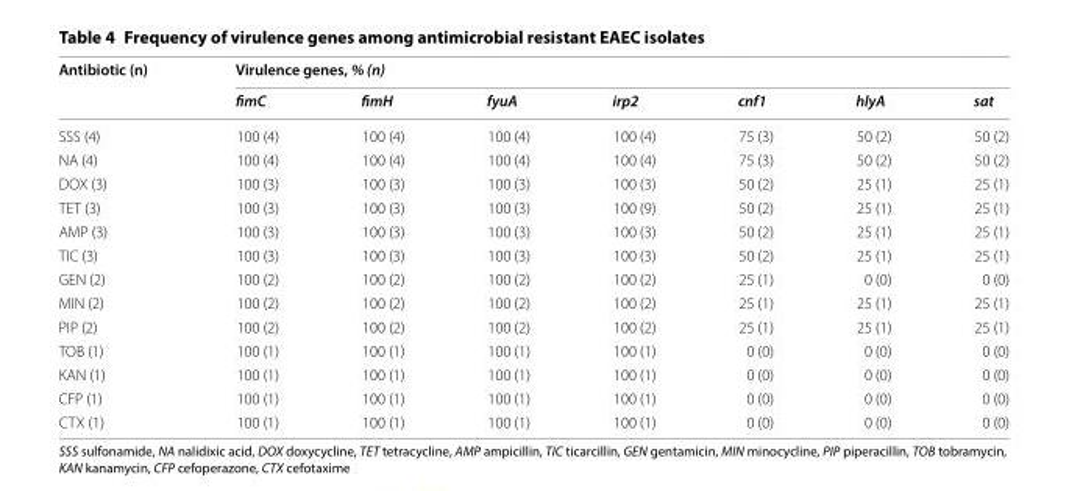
<table><thead><tr><td rowspan="2">Antibiotic (n)</td><td colspan="7">Virulence genes, % (n)</td></tr><tr><td>fimC</td><td>fimH</td><td>fyuA</td><td>irp2</td><td>cnf1</td><td>hlyA</td><td>sat</td></tr></thead><tbody><tr><td>SSS (4)</td><td>100 (4)</td><td>100 (4)</td><td>100 (4)</td><td>100 (4)</td><td>75 (3)</td><td>50 (2)</td><td>50 (2)</td></tr><tr><td>NA (4)</td><td>100 (4)</td><td>100 (4)</td><td>100 (4)</td><td>100 (4)</td><td>75 (3)</td><td>50 (2)</td><td>50 (2)</td></tr><tr><td>DOX (3)</td><td>100 (3)</td><td>100 (3)</td><td>100 (3)</td><td>100 (3)</td><td>50 (2)</td><td>25 (1)</td><td>25 (1)</td></tr><tr><td>TET (3)</td><td>100 (3)</td><td>100 (3)</td><td>100 (3)</td><td>100 (9)</td><td>50 (2)</td><td>25 (1)</td><td>25 (1)</td></tr><tr><td>AMP (3)</td><td>100 (3)</td><td>100 (3)</td><td>100 (3)</td><td>100 (3)</td><td>50 (2)</td><td>25 (1)</td><td>25 (1)</td></tr><tr><td>TIC (3)</td><td>100 (3)</td><td>100 (3)</td><td>100 (3)</td><td>100 (3)</td><td>50 (2)</td><td>25 (1)</td><td>25 (1)</td></tr><tr><td>GEN (2)</td><td>100 (2)</td><td>100 (2)</td><td>100 (2)</td><td>100 (2)</td><td>25 (1)</td><td>0 (0)</td><td>0 (0)</td></tr><tr><td>MIN (2)</td><td>100 (2)</td><td>100 (2)</td><td>100 (2)</td><td>100 (2)</td><td>25 (1)</td><td>25 (1)</td><td>25 (1)</td></tr><tr><td>PIP (2)</td><td>100 (2)</td><td>100 (2)</td><td>100 (2)</td><td>100 (2)</td><td>25 (1)</td><td>25 (1)</td><td>25 (1)</td></tr><tr><td>TOB (1)</td><td>100 (1)</td><td>100 (1)</td><td>100 (1)</td><td>100 (1)</td><td>0 (0)</td><td>0 (0)</td><td>0 (0)</td></tr><tr><td>KAN (1)</td><td>100 (1)</td><td>100 (1)</td><td>100 (1)</td><td>100 (1)</td><td>0 (0)</td><td>0 (0)</td><td>0 (0)</td></tr><tr><td>CFP (1)</td><td>100 (1)</td><td>100 (1)</td><td>100 (1)</td><td>100 (1)</td><td>0 (0)</td><td>0 (0)</td><td>0 (0)</td></tr><tr><td>CTX (1)</td><td>100 (1)</td><td>100 (1)</td><td>100 (1)</td><td>100 (1)</td><td>0 (0)</td><td>0 (0)</td><td>0 (0)</td></tr></tbody></table>